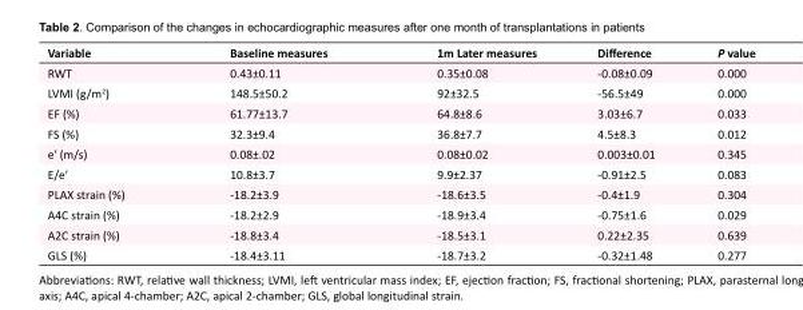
<table><tbody><tr><td>Variable</td><td>Baseline measures</td><td>1m Later measures</td><td>Difference</td><td>P value</td></tr><tr><td>RWT</td><td>0.43±0.11</td><td>0.35±0.08</td><td>-0.08±0.09</td><td>0.000</td></tr><tr><td>LVMI (g/m<sup>2</sup>)</td><td>148.5±50.2</td><td>92±32.5</td><td>-56.5±49</td><td>0.000</td></tr><tr><td>EF (%)</td><td>61.77±13.7</td><td>64.8±8.6</td><td>3.03±6.7</td><td>0.033</td></tr><tr><td>FS (%)</td><td>32.3±9.4</td><td>36.8±7.7</td><td>4.5±8.3</td><td>0.012</td></tr><tr><td>e′ (m/s)</td><td>0.08±.02</td><td>0.08±0.02</td><td>0.003±0.01</td><td>0.345</td></tr><tr><td>E/e′</td><td>10.8±3.7</td><td>9.9±2.37</td><td>-0.91±2.5</td><td>0.083</td></tr><tr><td>PLAX strain (%)</td><td>-18.2±3.9</td><td>-18.6±3.5</td><td>-0.4±1.9</td><td>0.304</td></tr><tr><td>A4C strain (%)</td><td>-18.2±2.9</td><td>-18.9±3.4</td><td>-0.75±1.6</td><td>0.029</td></tr><tr><td>A2C strain (%)</td><td>-18.8±3.4</td><td>-18.5±3.1</td><td>0.22±2.35</td><td>0.639</td></tr><tr><td>GLS (%)</td><td>-18.4±3.11</td><td>-18.7±3.2</td><td>-0.32±1.48</td><td>0.277</td></tr></tbody></table>